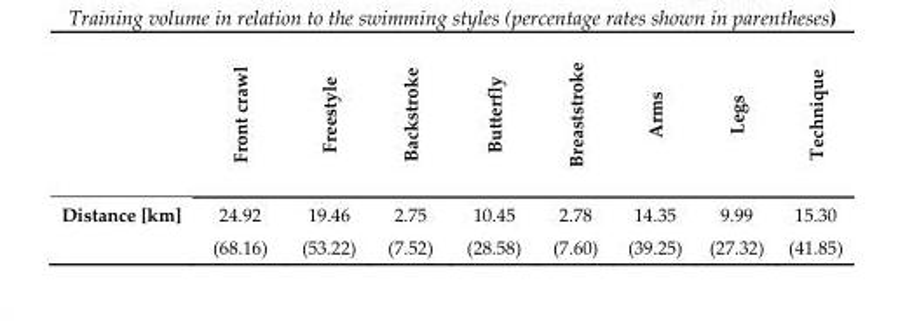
<table><thead><tr><td></td><td>Front crawl</td><td>Freestyle</td><td>Backstroke</td><td>Butterfly</td><td>Breaststroke</td><td>Arms</td><td>Legs</td><td>Technique</td></tr></thead><tbody><tr><td>Distance [km]</td><td>24.92 (68.16)</td><td>19.46 (53.22)</td><td>2.75 (7.52)</td><td>10.45 (28.58)</td><td>2.78 (7.60)</td><td>14.35 (39.25)</td><td>9.99 (27.32)</td><td>15.30 (41.85)</td></tr></tbody></table>